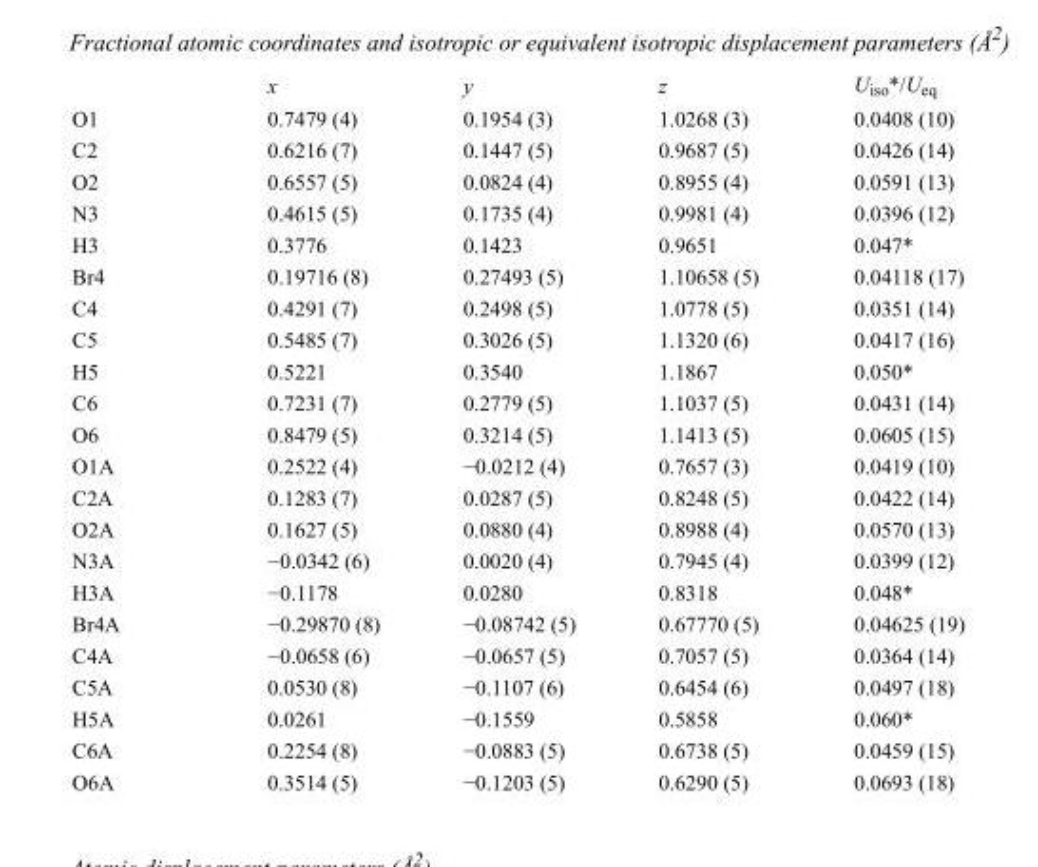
<table><thead><tr><td></td><td>x</td><td>y</td><td>z</td><td>U<sub>iso</sub>*/U<sub>eq</sub></td></tr></thead><tbody><tr><td>O1</td><td>0.7479 (4)</td><td>0.1954 (3)</td><td>1.0268 (3)</td><td>0.0408 (10)</td></tr><tr><td>C2</td><td>0.6216 (7)</td><td>0.1447 (5)</td><td>0.9687 (5)</td><td>0.0426 (14)</td></tr><tr><td>O2</td><td>0.6557 (5)</td><td>0.0824 (4)</td><td>0.8955 (4)</td><td>0.0591 (13)</td></tr><tr><td>N3</td><td>0.4615 (5)</td><td>0.1735 (4)</td><td>0.9981 (4)</td><td>0.0396 (12)</td></tr><tr><td>H3</td><td>0.3776</td><td>0.1423</td><td>0.9651</td><td>0.047*</td></tr><tr><td>Br4</td><td>0.19716 (8)</td><td>0.27493 (5)</td><td>1.10658 (5)</td><td>0.04118 (17)</td></tr><tr><td>C4</td><td>0.4291 (7)</td><td>0.2498 (5)</td><td>1.0778 (5)</td><td>0.0351 (14)</td></tr><tr><td>C5</td><td>0.5485 (7)</td><td>0.3026 (5)</td><td>1.1320 (6)</td><td>0.0417 (16)</td></tr><tr><td>H5</td><td>0.5221</td><td>0.3540</td><td>1.1867</td><td>0.050*</td></tr><tr><td>C6</td><td>0.7231 (7)</td><td>0.2779 (5)</td><td>1.1037 (5)</td><td>0.0431 (14)</td></tr><tr><td>O6</td><td>0.8479 (5)</td><td>0.3214 (5)</td><td>1.1413 (5)</td><td>0.0605 (15)</td></tr><tr><td>O1A</td><td>0.2522 (4)</td><td>−0.0212 (4)</td><td>0.7657 (3)</td><td>0.0419 (10)</td></tr><tr><td>C2A</td><td>0.1283 (7)</td><td>0.0287 (5)</td><td>0.8248 (5)</td><td>0.0422 (14)</td></tr><tr><td>O2A</td><td>0.1627 (5)</td><td>0.0880 (4)</td><td>0.8988 (4)</td><td>0.0570 (13)</td></tr><tr><td>N3A</td><td>−0.0342 (6)</td><td>0.0020 (4)</td><td>0.7945 (4)</td><td>0.0399 (12)</td></tr><tr><td>H3A</td><td>−0.1178</td><td>0.0280</td><td>0.8318</td><td>0.048*</td></tr><tr><td>Br4A</td><td>−0.29870 (8)</td><td>−0.08742 (5)</td><td>0.67770 (5)</td><td>0.04625 (19)</td></tr><tr><td>C4A</td><td>−0.0658 (6)</td><td>−0.0657 (5)</td><td>0.7057 (5)</td><td>0.0364 (14)</td></tr><tr><td>C5A</td><td>0.0530 (8)</td><td>−0.1107 (6)</td><td>0.6454 (6)</td><td>0.0497 (18)</td></tr><tr><td>H5A</td><td>0.0261</td><td>−0.1559</td><td>0.5858</td><td>0.060*</td></tr><tr><td>C6A</td><td>0.2254 (8)</td><td>−0.0883 (5)</td><td>0.6738 (5)</td><td>0.0459 (15)</td></tr><tr><td>O6A</td><td>0.3514 (5)</td><td>−0.1203 (5)</td><td>0.6290 (5)</td><td>0.0693 (18)</td></tr></tbody></table>